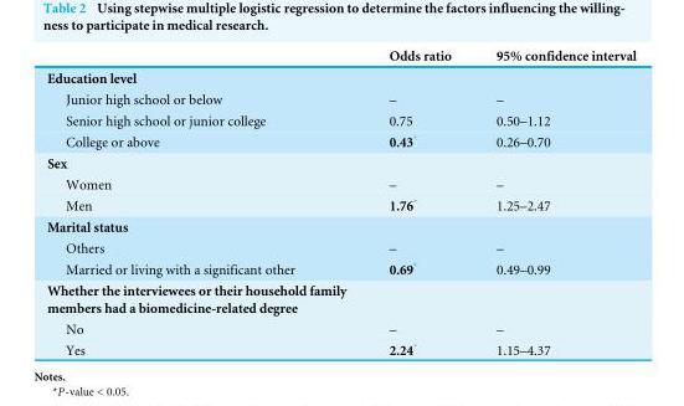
<table><thead><tr><td></td><td>Odds ratio</td><td>95% confidence interval</td></tr></thead><tbody><tr><td colspan="3">Education level</td></tr><tr><td>Junior high school or below</td><td>–</td><td>–</td></tr><tr><td>Senior high school or junior college</td><td>0.75</td><td>0.50–1.12</td></tr><tr><td>College or above</td><td>0.43*</td><td>0.26–0.70</td></tr><tr><td colspan="3">Sex</td></tr><tr><td>Women</td><td>–</td><td>–</td></tr><tr><td>Men</td><td>1.76*</td><td>1.25–2.47</td></tr><tr><td colspan="3">Marital status</td></tr><tr><td>Others</td><td>–</td><td>–</td></tr><tr><td>Married or living with a significant other</td><td>0.69*</td><td>0.49–0.99</td></tr><tr><td colspan="3">Whether the interviewees or their household family members had a biomedicine-related degree</td></tr><tr><td>No</td><td>–</td><td>–</td></tr><tr><td>Yes</td><td>2.24*</td><td>1.15–4.37</td></tr></tbody></table>